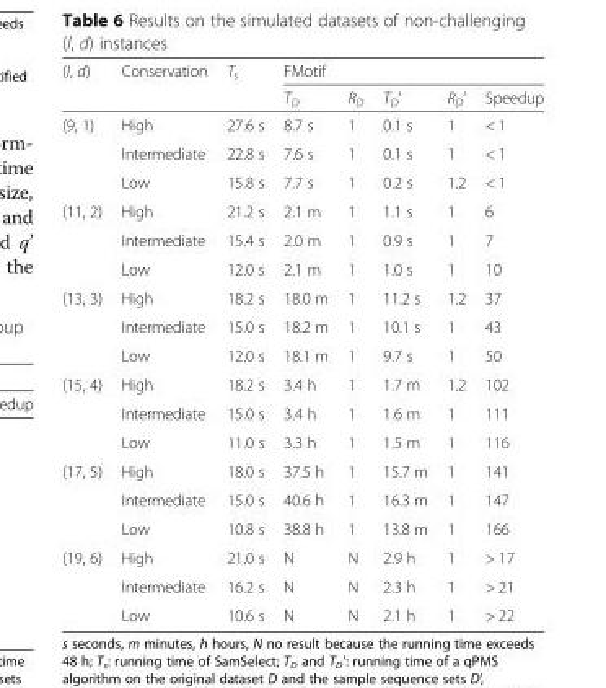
<table><thead><tr><td rowspan="2">(l, d)</td><td rowspan="2">Conservation</td><td rowspan="2">T<sub>s</sub></td><td colspan="5">FMotif</td></tr><tr><td>T<sub>D</sub></td><td>R<sub>D</sub></td><td>T<sub>D</sub>’</td><td>R<sub>D</sub>’</td><td>Speedup</td></tr></thead><tbody><tr><td rowspan="3">(9, 1)</td><td>High</td><td>27.6 s</td><td>8.7 s</td><td>1</td><td>0.1 s</td><td>1</td><td>&lt; 1</td></tr><tr><td>Intermediate</td><td>22.8 s</td><td>7.6 s</td><td>1</td><td>0.1 s</td><td>1</td><td>&lt; 1</td></tr><tr><td>Low</td><td>15.8 s</td><td>7.7 s</td><td>1</td><td>0.2 s</td><td>1.2</td><td>&lt; 1</td></tr><tr><td rowspan="3">(11, 2)</td><td>High</td><td>21.2 s</td><td>2.1 m</td><td>1</td><td>1.1 s</td><td>1</td><td>6</td></tr><tr><td>Intermediate</td><td>15.4 s</td><td>2.0 m</td><td>1</td><td>0.9 s</td><td>1</td><td>7</td></tr><tr><td>Low</td><td>12.0 s</td><td>2.1 m</td><td>1</td><td>1.0 s</td><td>1</td><td>10</td></tr><tr><td rowspan="3">(13, 3)</td><td>High</td><td>18.2 s</td><td>18.0 m</td><td>1</td><td>11.2 s</td><td>1.2</td><td>37</td></tr><tr><td>Intermediate</td><td>15.0 s</td><td>18.2 m</td><td>1</td><td>10.1 s</td><td>1</td><td>43</td></tr><tr><td>Low</td><td>12.0 s</td><td>18.1 m</td><td>1</td><td>9.7 s</td><td>1</td><td>50</td></tr><tr><td rowspan="3">(15, 4)</td><td>High</td><td>18.2 s</td><td>3.4 h</td><td>1</td><td>1.7 m</td><td>1.2</td><td>102</td></tr><tr><td>Intermediate</td><td>15.0 s</td><td>3.4 h</td><td>1</td><td>1.6 m</td><td>1</td><td>111</td></tr><tr><td>Low</td><td>11.0 s</td><td>3.3 h</td><td>1</td><td>1.5 m</td><td>1</td><td>116</td></tr><tr><td rowspan="3">(17, 5)</td><td>High</td><td>18.0 s</td><td>37.5 h</td><td>1</td><td>15.7 m</td><td>1</td><td>141</td></tr><tr><td>Intermediate</td><td>15.0 s</td><td>40.6 h</td><td>1</td><td>16.3 m</td><td>1</td><td>147</td></tr><tr><td>Low</td><td>10.8 s</td><td>38.8 h</td><td>1</td><td>13.8 m</td><td>1</td><td>166</td></tr><tr><td rowspan="3">(19, 6)</td><td>High</td><td>21.0 s</td><td>N</td><td>N</td><td>2.9 h</td><td>1</td><td>&gt; 17</td></tr><tr><td>Intermediate</td><td>16.2 s</td><td>N</td><td>N</td><td>2.3 h</td><td>1</td><td>&gt; 21</td></tr><tr><td>Low</td><td>10.6 s</td><td>N</td><td>N</td><td>2.1 h</td><td>1</td><td>&gt; 22</td></tr></tbody></table>